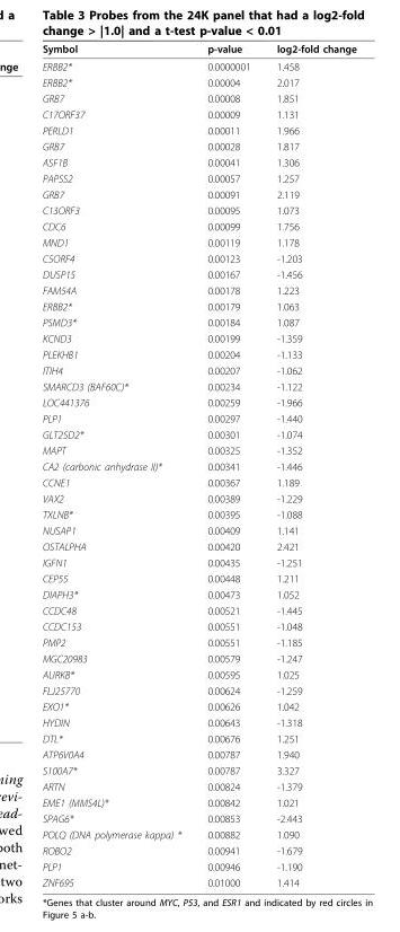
<table><thead><tr><td>Symbol</td><td>p-value</td><td>log2-fold change</td></tr></thead><tbody><tr><td>ERBB2*</td><td>0.0000001</td><td>1.458</td></tr><tr><td>ERBB2*</td><td>0.00004</td><td>2.017</td></tr><tr><td>GRB7</td><td>0.00008</td><td>1.851</td></tr><tr><td>C17ORF37</td><td>0.00009</td><td>1.131</td></tr><tr><td>PERLD1</td><td>0.00011</td><td>1.966</td></tr><tr><td>GRB7</td><td>0.00028</td><td>1.817</td></tr><tr><td>ASF1B</td><td>0.00041</td><td>1.306</td></tr><tr><td>PAPSS2</td><td>0.00057</td><td>1.257</td></tr><tr><td>GRB7</td><td>0.00091</td><td>2.119</td></tr><tr><td>C13ORF3</td><td>0.00095</td><td>1.073</td></tr><tr><td>CDC6</td><td>0.00099</td><td>1.756</td></tr><tr><td>MND1</td><td>0.00119</td><td>1.178</td></tr><tr><td>C5ORF4</td><td>0.00123</td><td>-1.203</td></tr><tr><td>DUSP15</td><td>0.00167</td><td>-1.456</td></tr><tr><td>FAM54A</td><td>0.00178</td><td>1.223</td></tr><tr><td>ERBB2*</td><td>0.00179</td><td>1.063</td></tr><tr><td>PSMD3*</td><td>0.00184</td><td>1.087</td></tr><tr><td>KCND3</td><td>0.00199</td><td>-1.359</td></tr><tr><td>PLEKHB1</td><td>0.00204</td><td>-1.133</td></tr><tr><td>ITIH4</td><td>0.00207</td><td>-1.062</td></tr><tr><td>SMARCD3 (BAF60C)*</td><td>0.00234</td><td>-1.122</td></tr><tr><td>LOC441376</td><td>0.00259</td><td>-1.966</td></tr><tr><td>PLP1</td><td>0.00297</td><td>-1.440</td></tr><tr><td>GLT25D2*</td><td>0.00301</td><td>-1.074</td></tr><tr><td>MAPT</td><td>0.00325</td><td>-1.352</td></tr><tr><td>CA2 (carbonic anhydrase II)*</td><td>0.00341</td><td>-1.446</td></tr><tr><td>CCNE1</td><td>0.00367</td><td>1.189</td></tr><tr><td>VAX2</td><td>0.00389</td><td>-1.229</td></tr><tr><td>TXLNB*</td><td>0.00395</td><td>-1.088</td></tr><tr><td>NUSAP1</td><td>0.00409</td><td>1.141</td></tr><tr><td>OSTALPHA</td><td>0.00420</td><td>2.421</td></tr><tr><td>IGFN1</td><td>0.00435</td><td>-1.251</td></tr><tr><td>CEP55</td><td>0.00448</td><td>1.211</td></tr><tr><td>DIAPH3*</td><td>0.00473</td><td>1.052</td></tr><tr><td>CCDC48</td><td>0.00521</td><td>-1.445</td></tr><tr><td>CCDC153</td><td>0.00551</td><td>-1.048</td></tr><tr><td>PMP2</td><td>0.00551</td><td>-1.185</td></tr><tr><td>MGC20983</td><td>0.00579</td><td>-1.247</td></tr><tr><td>AURKB*</td><td>0.00595</td><td>1.025</td></tr><tr><td>FLJ25770</td><td>0.00624</td><td>-1.259</td></tr><tr><td>EXO1*</td><td>0.00626</td><td>1.042</td></tr><tr><td>HYDIN</td><td>0.00643</td><td>-1.318</td></tr><tr><td>DTL*</td><td>0.00676</td><td>1.251</td></tr><tr><td>ATP6V0A4</td><td>0.00787</td><td>1.940</td></tr><tr><td>S100A7*</td><td>0.00787</td><td>3.327</td></tr><tr><td>ARTN</td><td>0.00824</td><td>-1.379</td></tr><tr><td>EME1 (MMS4L)*</td><td>0.00842</td><td>1.021</td></tr><tr><td>SPAG6*</td><td>0.00853</td><td>-2.443</td></tr><tr><td>POLQ (DNA polymerase kappa) *</td><td>0.00882</td><td>1.090</td></tr><tr><td>ROBO2</td><td>0.00941</td><td>-1.679</td></tr><tr><td>PLP1</td><td>0.00946</td><td>-1.190</td></tr><tr><td>ZNF695</td><td>0.01000</td><td>1.414</td></tr></tbody></table>